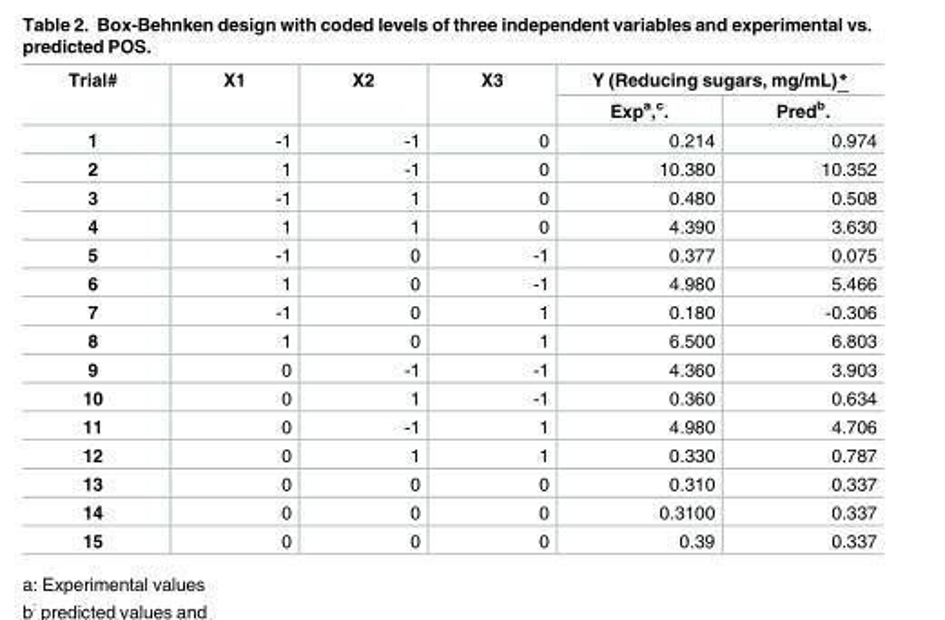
<table><thead><tr><td rowspan="2">Trial#</td><td rowspan="2">X1</td><td rowspan="2">X2</td><td rowspan="2">X3</td><td colspan="2">Y (Reducing sugars, mg/mL)*</td></tr><tr><td>Exp<sup>a</sup>,<sup>c</sup>.</td><td>Pred<sup>b</sup>.</td></tr></thead><tbody><tr><td>1</td><td>-1</td><td>-1</td><td>0</td><td>0.214</td><td>0.974</td></tr><tr><td>2</td><td>1</td><td>-1</td><td>0</td><td>10.380</td><td>10.352</td></tr><tr><td>3</td><td>-1</td><td>1</td><td>0</td><td>0.480</td><td>0.508</td></tr><tr><td>4</td><td>1</td><td>1</td><td>0</td><td>4.390</td><td>3.630</td></tr><tr><td>5</td><td>-1</td><td>0</td><td>-1</td><td>0.377</td><td>0.075</td></tr><tr><td>6</td><td>1</td><td>0</td><td>-1</td><td>4.980</td><td>5.466</td></tr><tr><td>7</td><td>-1</td><td>0</td><td>1</td><td>0.180</td><td>-0.306</td></tr><tr><td>8</td><td>1</td><td>0</td><td>1</td><td>6.500</td><td>6.803</td></tr><tr><td>9</td><td>0</td><td>-1</td><td>-1</td><td>4.360</td><td>3.903</td></tr><tr><td>10</td><td>0</td><td>1</td><td>-1</td><td>0.360</td><td>0.634</td></tr><tr><td>11</td><td>0</td><td>-1</td><td>1</td><td>4.980</td><td>4.706</td></tr><tr><td>12</td><td>0</td><td>1</td><td>1</td><td>0.330</td><td>0.787</td></tr><tr><td>13</td><td>0</td><td>0</td><td>0</td><td>0.310</td><td>0.337</td></tr><tr><td>14</td><td>0</td><td>0</td><td>0</td><td>0.3100</td><td>0.337</td></tr><tr><td>15</td><td>0</td><td>0</td><td>0</td><td>0.39</td><td>0.337</td></tr></tbody></table>